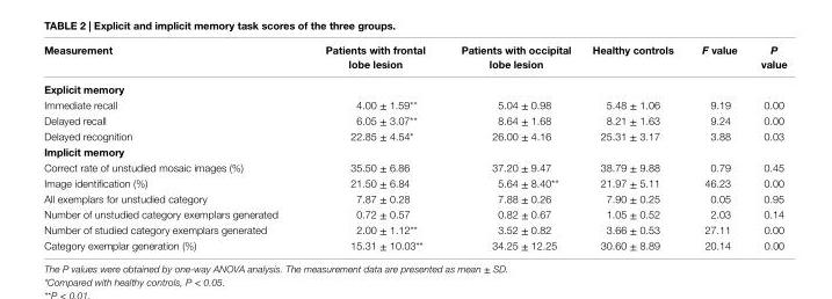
<table><thead><tr><td>Measurement</td><td>Patients with frontal lobe lesion</td><td>Patients with occipital lobe lesion</td><td>healthy controls</td><td>F value</td><td>P value</td></tr></thead><tbody><tr><td colspan="6">explicit memory</td></tr><tr><td>Immediate recall</td><td>4.00 ± 1.59**</td><td>5.04 ± 0.98</td><td>5.48 ± 1.06</td><td>9.19</td><td>0.00</td></tr><tr><td>Delayed recall</td><td>6.05 ± 3.07**</td><td>8.64 ± 1.68</td><td>8.21 ± 1.63</td><td>9.24</td><td>0.00</td></tr><tr><td>Delayed recognition</td><td>22.85 ± 4.54*</td><td>26.00 ± 4.16</td><td>25.31 ± 3.17</td><td>3.88</td><td>0.03</td></tr><tr><td colspan="6">implicit memory</td></tr><tr><td>Correct rate of unstudied mosaic images (%)</td><td>35.50 ± 6.86</td><td>37.20 ± 9.47</td><td>38.79 ± 9.88</td><td>0.79</td><td>0.45</td></tr><tr><td>Image identification (%)</td><td>21.50 ± 6.84</td><td>5.64 ± 8.40**</td><td>21.97 ± 5.11</td><td>46.23</td><td>0.00</td></tr><tr><td>All exemplars for unstudied category</td><td>7.87 ± 0.28</td><td>7.88 ± 0.26</td><td>7.90 ± 0.25</td><td>0.05</td><td>0.95</td></tr><tr><td>Number of unstudied category exemplars generated</td><td>0.72 ± 0.57</td><td>0.82 ± 0.67</td><td>1.05 ± 0.52</td><td>2.03</td><td>0.14</td></tr><tr><td>Number of studied category exemplars generated</td><td>2.00 ± 1.12**</td><td>3.52 ± 0.82</td><td>3.66 ± 0.53</td><td>27.11</td><td>0.00</td></tr><tr><td>Category exemplar generation (%)</td><td>15.31 ± 10.03**</td><td>34.25 ± 12.25</td><td>30.60 ± 8.89</td><td>20.14</td><td>0.00</td></tr></tbody></table>